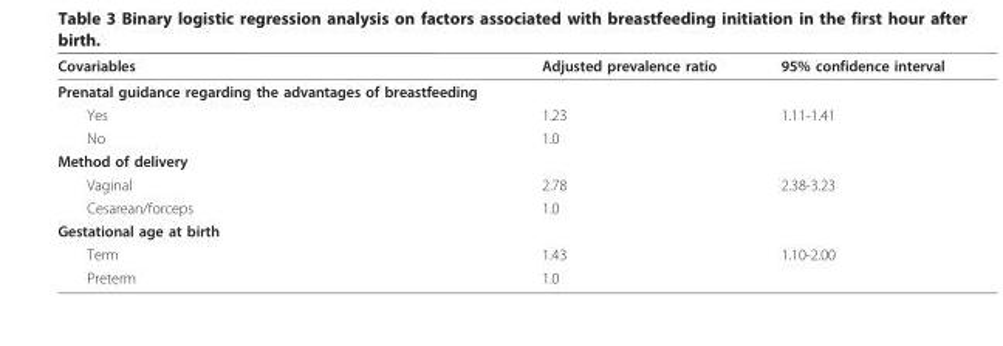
<table><thead><tr><td>Covariables</td><td>Adjusted prevalence ratio</td><td>95% confidence interval</td></tr></thead><tbody><tr><td colspan="3">Prenatal guidance regarding the advantages of breastfeeding</td></tr><tr><td>Yes</td><td>1.23</td><td>1.11-1.41</td></tr><tr><td>No</td><td>1.0</td><td></td></tr><tr><td colspan="3">Method of delivery</td></tr><tr><td>Vaginal</td><td>2.78</td><td>2.38-3.23</td></tr><tr><td>Cesarean/forceps</td><td>1.0</td><td></td></tr><tr><td colspan="3">Gestational age at birth</td></tr><tr><td>Term</td><td>1.43</td><td>1.10-2.00</td></tr><tr><td>Preterm</td><td>1.0</td><td></td></tr></tbody></table>